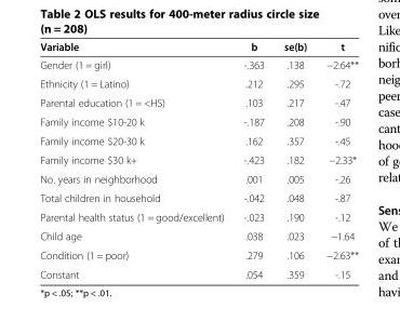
<table><thead><tr><td>Variable</td><td>b</td><td>se(b)</td><td>t</td></tr></thead><tbody><tr><td>Gender (1 = girl)</td><td>-.363</td><td>.138</td><td>−2.64**</td></tr><tr><td>Ethnicity (1 = Latino)</td><td>.212</td><td>.295</td><td>-.72</td></tr><tr><td>Parental education (1 = &lt;HS)</td><td>.103</td><td>.217</td><td>-.47</td></tr><tr><td>Family income $10-20 k</td><td>-.187</td><td>.208</td><td>-.90</td></tr><tr><td>Family income $20-30 k</td><td>.162</td><td>.357</td><td>-.45</td></tr><tr><td>Family income $30 k+</td><td>-.423</td><td>.182</td><td>−2.33*</td></tr><tr><td>No. years in neighborhood</td><td>.001</td><td>.005</td><td>-.26</td></tr><tr><td>Total children in household</td><td>-.042</td><td>.048</td><td>-.87</td></tr><tr><td>Parental health status (1 = good/excellent)</td><td>-.023</td><td>.190</td><td>-.12</td></tr><tr><td>Child age</td><td>.038</td><td>.023</td><td>−1.64</td></tr><tr><td>Condition (1 = poor)</td><td>.279</td><td>.106</td><td>−2.63**</td></tr><tr><td>Constant</td><td>.054</td><td>.359</td><td>-.15</td></tr></tbody></table>